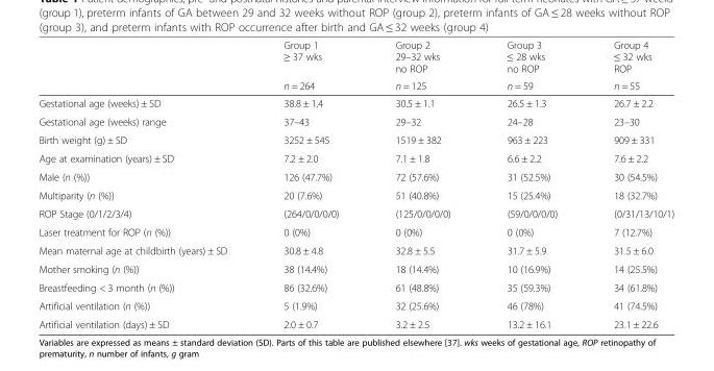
<table><thead><tr><td rowspan="2"></td><td rowspan="2">Group 1 ≥ 37 wks n = 264</td><td rowspan="2">Group 2 29–32 wks no ROP n = 125</td><td rowspan="2">Group 3 ≤ 28 wks no ROP n = 59</td><td rowspan="2">Group 4 ≤ 32 wks ROP n = 55</td></tr><tr></tr></thead><tbody><tr><td>Gestational age (weeks) ± SD</td><td>38.8 ± 1.4</td><td>30.5 ± 1.1</td><td>26.5 ± 1.3</td><td>26.7 ± 2.2</td></tr><tr><td>Gestational age (weeks) range</td><td>37–43</td><td>29–32</td><td>24–28</td><td>23–30</td></tr><tr><td>Birth weight (g) ± SD</td><td>3252 ± 545</td><td>1519 ± 382</td><td>963 ± 223</td><td>909 ± 331</td></tr><tr><td>Age at examination (years) ± SD</td><td>7.2 ± 2.0</td><td>7.1 ± 1.8</td><td>6.6 ± 2.2</td><td>7.6 ± 2.2</td></tr><tr><td>Male (n (%))</td><td>126 (47.7%)</td><td>72 (57.6%)</td><td>31 (52.5%)</td><td>30 (54.5%)</td></tr><tr><td>Multiparity (n (%))</td><td>20 (7.6%)</td><td>51 (40.8%)</td><td>15 (25.4%)</td><td>18 (32.7%)</td></tr><tr><td>ROP Stage (0/1/2/3/4)</td><td>(264/0/0/0/0)</td><td>(125/0/0/0/0)</td><td>(59/0/0/0/0)</td><td>(0/31/13/10/1)</td></tr><tr><td>Laser treatment for ROP (n (%))</td><td>0 (0%)</td><td>0 (0%)</td><td>0 (0%)</td><td>7 (12.7%)</td></tr><tr><td>Mean maternal age at childbirth (years) ± SD</td><td>30.8 ± 4.8</td><td>32.8 ± 5.5</td><td>31.7 ± 5.9</td><td>31.5 ± 6.0</td></tr><tr><td>Mother smoking (n (%))</td><td>38 (14.4%)</td><td>18 (14.4%)</td><td>10 (16.9%)</td><td>14 (25.5%)</td></tr><tr><td>Breastfeeding &lt; 3 month (n (%))</td><td>86 (32.6%)</td><td>61 (48.8%)</td><td>35 (59.3%)</td><td>34 (61.8%)</td></tr><tr><td>Artificial ventilation (n (%))</td><td>5 (1.9%)</td><td>32 (25.6%)</td><td>46 (78%)</td><td>41 (74.5%)</td></tr><tr><td>Artificial ventilation (days) ± SD</td><td>2.0 ± 0.7</td><td>3.2 ± 2.5</td><td>13.2 ± 16.1</td><td>23.1 ± 22.6</td></tr></tbody></table>